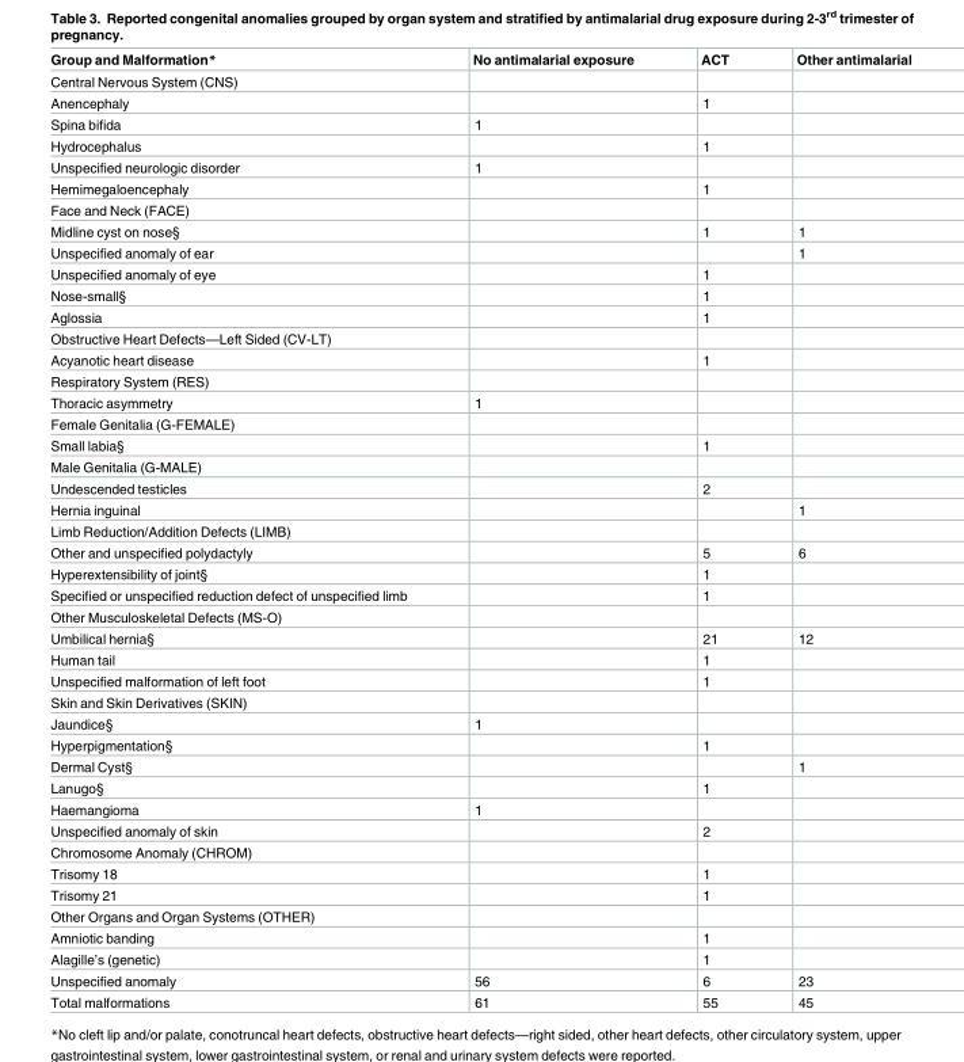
<table><thead><tr><td>Group and Malformation*</td><td>No antimalarial exposure</td><td>ACT</td><td>Other antimalarial</td></tr></thead><tbody><tr><td colspan="4">Central Nervous System (CNS)</td></tr><tr><td>Anencephaly</td><td></td><td>1</td><td></td></tr><tr><td>Spina bifida</td><td>1</td><td></td><td></td></tr><tr><td>Hydrocephalus</td><td></td><td>1</td><td></td></tr><tr><td>Unspecified neurologic disorder</td><td>1</td><td></td><td></td></tr><tr><td>Hemimegaloencephaly</td><td></td><td>1</td><td></td></tr><tr><td colspan="4">Face and Neck (FACE)</td></tr><tr><td>Midline cyst on nose§</td><td></td><td>1</td><td>1</td></tr><tr><td>Unspecified anomaly of ear</td><td></td><td></td><td>1</td></tr><tr><td>Unspecified anomaly of eye</td><td></td><td>1</td><td></td></tr><tr><td>Nose-small§</td><td></td><td>1</td><td></td></tr><tr><td>Aglossia</td><td></td><td>1</td><td></td></tr><tr><td colspan="4">Obstructive Heart Defects—Left Sided (CV-LT)</td></tr><tr><td>Acyanotic heart disease</td><td></td><td>1</td><td></td></tr><tr><td colspan="4">Respiratory System (RES)</td></tr><tr><td>Thoracic asymmetry</td><td>1</td><td></td><td></td></tr><tr><td colspan="4">Female Genitalia (G-FEMALE)</td></tr><tr><td>Small labia§</td><td></td><td>1</td><td></td></tr><tr><td colspan="4">Male Genitalia (G-MALE)</td></tr><tr><td>Undescended testicles</td><td></td><td>2</td><td></td></tr><tr><td>Hernia inguinal</td><td></td><td></td><td>1</td></tr><tr><td colspan="4">Limb Reduction/Addition Defects (LIMB)</td></tr><tr><td>Other and unspecified polydactyly</td><td></td><td>5</td><td>6</td></tr><tr><td>Hyperextensibility of joint§</td><td></td><td>1</td><td></td></tr><tr><td>Specified or unspecified reduction defect of unspecified limb</td><td></td><td>1</td><td></td></tr><tr><td colspan="4">Other Musculoskeletal Defects (MS-O)</td></tr><tr><td>Umbilical hernia§</td><td></td><td>21</td><td>12</td></tr><tr><td>Human tail</td><td></td><td>1</td><td></td></tr><tr><td>Unspecified malformation of left foot</td><td></td><td>1</td><td></td></tr><tr><td colspan="4">Skin and Skin Derivatives (SKIN)</td></tr><tr><td>Jaundice§</td><td>1</td><td></td><td></td></tr><tr><td>Hyperpigmentation§</td><td></td><td>1</td><td></td></tr><tr><td>Dermal Cyst§</td><td></td><td></td><td>1</td></tr><tr><td>Lanugo§</td><td></td><td>1</td><td></td></tr><tr><td>Haemangioma</td><td>1</td><td></td><td></td></tr><tr><td>Unspecified anomaly of skin</td><td></td><td>2</td><td></td></tr><tr><td colspan="4">Chromosome Anomaly (CHROM)</td></tr><tr><td>Trisomy 18</td><td></td><td>1</td><td></td></tr><tr><td>Trisomy 21</td><td></td><td>1</td><td></td></tr><tr><td colspan="4">Other Organs and Organ Systems (OTHER)</td></tr><tr><td>Amniotic banding</td><td></td><td>1</td><td></td></tr><tr><td>Alagille’s (genetic)</td><td></td><td>1</td><td></td></tr><tr><td>Unspecified anomaly</td><td>56</td><td>6</td><td>23</td></tr><tr><td>Total malformations</td><td>61</td><td>55</td><td>45</td></tr></tbody></table>